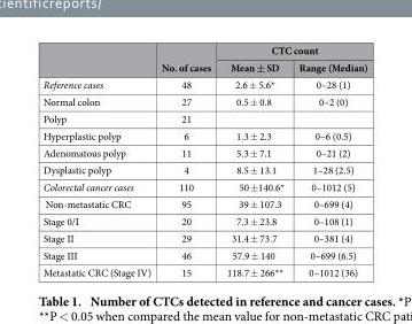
<table><thead><tr><td rowspan="2"></td><td rowspan="2">No. of cases</td><td colspan="2">CTC count</td></tr><tr><td>Mean ± SD</td><td>Range (Median)</td></tr></thead><tbody><tr><td>Reference cases</td><td>48</td><td>2.6 ± 5.6*</td><td>0–28 (1)</td></tr><tr><td>Normal colon</td><td>27</td><td>0.5 ± 0.8</td><td>0–2 (0)</td></tr><tr><td>Polyp</td><td>21</td><td></td><td></td></tr><tr><td>Hyperplastic polyp</td><td>6</td><td>1.3 ± 2.3</td><td>0–6 (0.5)</td></tr><tr><td>Adenomatous polyp</td><td>11</td><td>5.3 ± 7.1</td><td>0–21 (2)</td></tr><tr><td>Dysplastic polyp</td><td>4</td><td>8.5 ± 13.1</td><td>1–28 (2.5)</td></tr><tr><td>Colorectal cancer cases</td><td>110</td><td>50 ±140.6*</td><td>0–1012 (5)</td></tr><tr><td>Non-metastatic CRC</td><td>95</td><td>39 ± 107.3</td><td>0–699 (4)</td></tr><tr><td>Stage 0/I</td><td>20</td><td>7.3 ± 23.8</td><td>0–108 (1)</td></tr><tr><td>Stage II</td><td>29</td><td>31.4 ± 73.7</td><td>0–381 (4)</td></tr><tr><td>Stage III</td><td>46</td><td>57.9 ± 140</td><td>0–699 (6.5)</td></tr><tr><td>Metastatic CRC (Stage IV)</td><td>15</td><td>118.7 ± 266**</td><td>0–1012 (36)</td></tr></tbody></table>